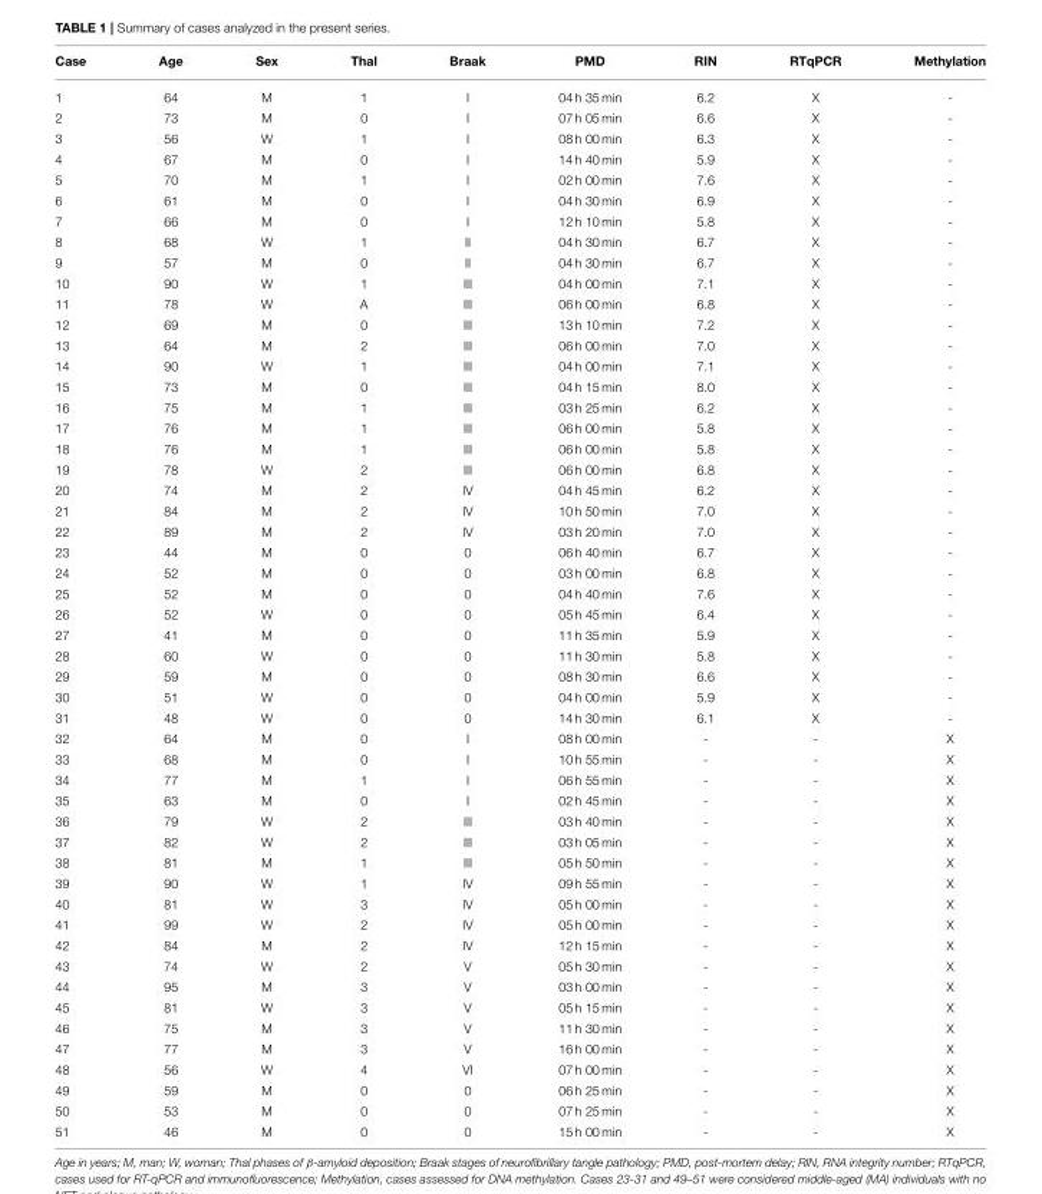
<table><thead><tr><td>Case</td><td>Age</td><td>Sex</td><td>Thal</td><td>Braak</td><td>PMD</td><td>RIN</td><td>RTqPCR</td><td>Methylation</td></tr></thead><tbody><tr><td>1</td><td>64</td><td>M</td><td>1</td><td>I</td><td>04 h 35 min</td><td>6.2</td><td>X</td><td>-</td></tr><tr><td>2</td><td>73</td><td>M</td><td>0</td><td>I</td><td>07 h 05 min</td><td>6.6</td><td>X</td><td>-</td></tr><tr><td>3</td><td>56</td><td>W</td><td>1</td><td>I</td><td>08 h 00 min</td><td>6.3</td><td>X</td><td>-</td></tr><tr><td>4</td><td>67</td><td>M</td><td>0</td><td>I</td><td>14 h 40 min</td><td>5.9</td><td>X</td><td>-</td></tr><tr><td>5</td><td>70</td><td>M</td><td>1</td><td>I</td><td>02 h 00 min</td><td>7.6</td><td>X</td><td>-</td></tr><tr><td>6</td><td>61</td><td>M</td><td>0</td><td>I</td><td>04 h 30 min</td><td>6.9</td><td>X</td><td>-</td></tr><tr><td>7</td><td>66</td><td>M</td><td>0</td><td>I</td><td>12 h 10 min</td><td>5.8</td><td>X</td><td>-</td></tr><tr><td>8</td><td>68</td><td>W</td><td>1</td><td>II</td><td>04 h 30 min</td><td>6.7</td><td>X</td><td>-</td></tr><tr><td>9</td><td>57</td><td>M</td><td>0</td><td>II</td><td>04 h 30 min</td><td>6.7</td><td>X</td><td>-</td></tr><tr><td>10</td><td>90</td><td>W</td><td>1</td><td>III</td><td>04 h 00 min</td><td>7.1</td><td>X</td><td>-</td></tr><tr><td>11</td><td>78</td><td>W</td><td>A</td><td>III</td><td>06 h 00 min</td><td>6.8</td><td>X</td><td>-</td></tr><tr><td>12</td><td>69</td><td>M</td><td>0</td><td>III</td><td>13 h 10 min</td><td>7.2</td><td>X</td><td>-</td></tr><tr><td>13</td><td>64</td><td>M</td><td>2</td><td>III</td><td>06 h 00 min</td><td>7.0</td><td>X</td><td>-</td></tr><tr><td>14</td><td>90</td><td>W</td><td>1</td><td>III</td><td>04 h 00 min</td><td>7.1</td><td>X</td><td>-</td></tr><tr><td>15</td><td>73</td><td>M</td><td>0</td><td>III</td><td>04 h 15 min</td><td>8.0</td><td>X</td><td>-</td></tr><tr><td>16</td><td>75</td><td>M</td><td>1</td><td>III</td><td>03 h 25 min</td><td>6.2</td><td>X</td><td>-</td></tr><tr><td>17</td><td>76</td><td>M</td><td>1</td><td>III</td><td>06 h 00 min</td><td>5.8</td><td>X</td><td>-</td></tr><tr><td>18</td><td>76</td><td>M</td><td>1</td><td>III</td><td>06 h 00 min</td><td>5.8</td><td>X</td><td>-</td></tr><tr><td>19</td><td>78</td><td>W</td><td>2</td><td>III</td><td>06 h 00 min</td><td>6.8</td><td>X</td><td>-</td></tr><tr><td>20</td><td>74</td><td>M</td><td>2</td><td>IV</td><td>04 h 45 min</td><td>6.2</td><td>X</td><td>-</td></tr><tr><td>21</td><td>84</td><td>M</td><td>2</td><td>IV</td><td>10 h 50 min</td><td>7.0</td><td>X</td><td>-</td></tr><tr><td>22</td><td>89</td><td>M</td><td>2</td><td>IV</td><td>03 h 20 min</td><td>7.0</td><td>X</td><td>-</td></tr><tr><td>23</td><td>44</td><td>M</td><td>0</td><td>0</td><td>06 h 40 min</td><td>6.7</td><td>X</td><td>-</td></tr><tr><td>24</td><td>52</td><td>M</td><td>0</td><td>0</td><td>03 h 00 min</td><td>6.8</td><td>X</td><td>-</td></tr><tr><td>25</td><td>52</td><td>M</td><td>0</td><td>0</td><td>04 h 40 min</td><td>7.6</td><td>X</td><td>-</td></tr><tr><td>26</td><td>52</td><td>W</td><td>0</td><td>0</td><td>05 h 45 min</td><td>6.4</td><td>X</td><td>-</td></tr><tr><td>27</td><td>41</td><td>M</td><td>0</td><td>0</td><td>11 h 35 min</td><td>5.9</td><td>X</td><td>-</td></tr><tr><td>28</td><td>60</td><td>W</td><td>0</td><td>0</td><td>11 h 30 min</td><td>5.8</td><td>X</td><td>-</td></tr><tr><td>29</td><td>59</td><td>M</td><td>0</td><td>0</td><td>08 h 30 min</td><td>6.6</td><td>X</td><td>-</td></tr><tr><td>30</td><td>51</td><td>W</td><td>0</td><td>0</td><td>04 h 00 min</td><td>5.9</td><td>X</td><td>-</td></tr><tr><td>31</td><td>48</td><td>W</td><td>0</td><td>0</td><td>14 h 30 min</td><td>6.1</td><td>X</td><td>-</td></tr><tr><td>32</td><td>64</td><td>M</td><td>0</td><td>I</td><td>08 h 00 min</td><td>-</td><td>-</td><td>X</td></tr><tr><td>33</td><td>68</td><td>M</td><td>0</td><td>I</td><td>10 h 55 min</td><td>-</td><td>-</td><td>X</td></tr><tr><td>34</td><td>77</td><td>M</td><td>1</td><td>I</td><td>06 h 55 min</td><td>-</td><td>-</td><td>X</td></tr><tr><td>35</td><td>63</td><td>M</td><td>0</td><td>I</td><td>02 h 45 min</td><td>-</td><td>-</td><td>X</td></tr><tr><td>36</td><td>79</td><td>W</td><td>2</td><td>III</td><td>03 h 40 min</td><td>-</td><td>-</td><td>X</td></tr><tr><td>37</td><td>82</td><td>W</td><td>2</td><td>III</td><td>03 h 05 min</td><td>-</td><td>-</td><td>X</td></tr><tr><td>38</td><td>81</td><td>M</td><td>1</td><td>III</td><td>05 h 50 min</td><td>-</td><td>-</td><td>X</td></tr><tr><td>39</td><td>90</td><td>W</td><td>1</td><td>IV</td><td>09 h 55 min</td><td>-</td><td>-</td><td>X</td></tr><tr><td>40</td><td>81</td><td>W</td><td>3</td><td>IV</td><td>05 h 00 min</td><td>-</td><td>-</td><td>X</td></tr><tr><td>41</td><td>99</td><td>W</td><td>2</td><td>IV</td><td>05 h 00 min</td><td>-</td><td>-</td><td>X</td></tr><tr><td>42</td><td>84</td><td>M</td><td>2</td><td>IV</td><td>12 h 15 min</td><td>-</td><td>-</td><td>X</td></tr><tr><td>43</td><td>74</td><td>W</td><td>2</td><td>V</td><td>05 h 30 min</td><td>-</td><td>-</td><td>X</td></tr><tr><td>44</td><td>95</td><td>M</td><td>3</td><td>V</td><td>03 h 00 min</td><td>-</td><td>-</td><td>X</td></tr><tr><td>45</td><td>81</td><td>W</td><td>3</td><td>V</td><td>05 h 15 min</td><td>-</td><td>-</td><td>X</td></tr><tr><td>46</td><td>75</td><td>M</td><td>3</td><td>V</td><td>11 h 30 min</td><td>-</td><td>-</td><td>X</td></tr><tr><td>47</td><td>77</td><td>M</td><td>3</td><td>V</td><td>16 h 00 min</td><td>-</td><td>-</td><td>X</td></tr><tr><td>48</td><td>56</td><td>W</td><td>4</td><td>VI</td><td>07 h 00 min</td><td>-</td><td>-</td><td>X</td></tr><tr><td>49</td><td>59</td><td>M</td><td>0</td><td>0</td><td>06 h 25 min</td><td>-</td><td>-</td><td>X</td></tr><tr><td>50</td><td>53</td><td>M</td><td>0</td><td>0</td><td>07 h 25 min</td><td>-</td><td>-</td><td>X</td></tr><tr><td>51</td><td>46</td><td>M</td><td>0</td><td>0</td><td>15 h 00 min</td><td>-</td><td>-</td><td>X</td></tr></tbody></table>